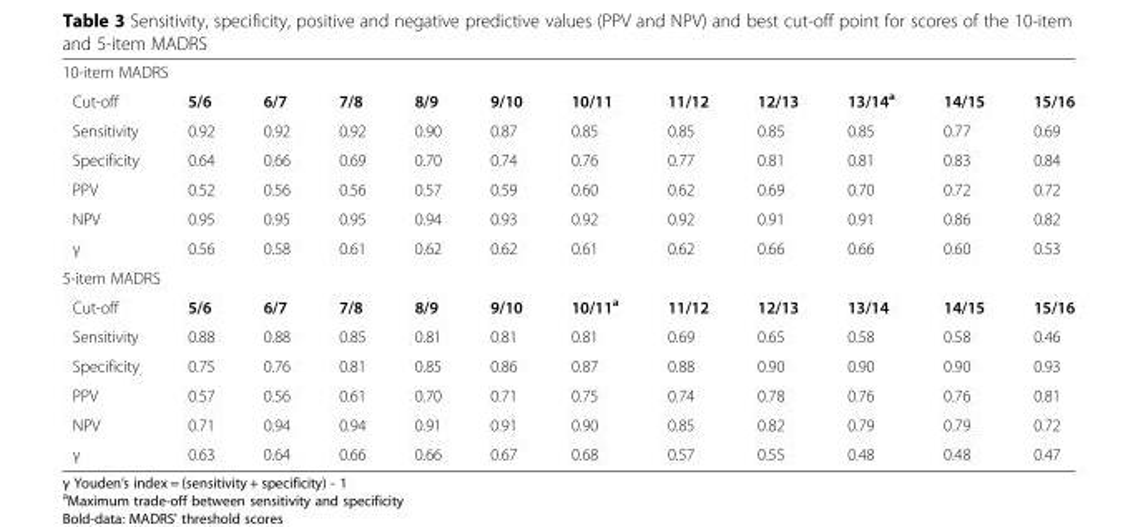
<table><tbody><tr><td colspan="12">10-item MADRS</td></tr><tr><td>Cut-off</td><td>5/6</td><td>6/7</td><td>7/8</td><td>8/9</td><td>9/10</td><td>10/11</td><td>11/12</td><td>12/13</td><td>13/14<sup>a</sup></td><td>14/15</td><td>15/16</td></tr><tr><td>Sensitivity</td><td>0.92</td><td>0.92</td><td>0.92</td><td>0.90</td><td>0.87</td><td>0.85</td><td>0.85</td><td>0.85</td><td>0.85</td><td>0.77</td><td>0.69</td></tr><tr><td>Specificity</td><td>0.64</td><td>0.66</td><td>0.69</td><td>0.70</td><td>0.74</td><td>0.76</td><td>0.77</td><td>0.81</td><td>0.81</td><td>0.83</td><td>0.84</td></tr><tr><td>PPV</td><td>0.52</td><td>0.56</td><td>0.56</td><td>0.57</td><td>0.59</td><td>0.60</td><td>0.62</td><td>0.69</td><td>0.70</td><td>0.72</td><td>0.72</td></tr><tr><td>NPV</td><td>0.95</td><td>0.95</td><td>0.95</td><td>0.94</td><td>0.93</td><td>0.92</td><td>0.92</td><td>0.91</td><td>0.91</td><td>0.86</td><td>0.82</td></tr><tr><td>γ</td><td>0.56</td><td>0.58</td><td>0.61</td><td>0.62</td><td>0.62</td><td>0.61</td><td>0.62</td><td>0.66</td><td>0.66</td><td>0.60</td><td>0.53</td></tr><tr><td colspan="12">5-item MADRS</td></tr><tr><td>Cut-off</td><td>5/6</td><td>6/7</td><td>7/8</td><td>8/9</td><td>9/10</td><td>10/11<sup>a</sup></td><td>11/12</td><td>12/13</td><td>13/14</td><td>14/15</td><td>15/16</td></tr><tr><td>Sensitivity</td><td>0.88</td><td>0.88</td><td>0.85</td><td>0.81</td><td>0.81</td><td>0.81</td><td>0.69</td><td>0.65</td><td>0.58</td><td>0.58</td><td>0.46</td></tr><tr><td>Specificity</td><td>0.75</td><td>0.76</td><td>0.81</td><td>0.85</td><td>0.86</td><td>0.87</td><td>0.88</td><td>0.90</td><td>0.90</td><td>0.90</td><td>0.93</td></tr><tr><td>PPV</td><td>0.57</td><td>0.56</td><td>0.61</td><td>0.70</td><td>0.71</td><td>0.75</td><td>0.74</td><td>0.78</td><td>0.76</td><td>0.76</td><td>0.81</td></tr><tr><td>NPV</td><td>0.71</td><td>0.94</td><td>0.94</td><td>0.91</td><td>0.91</td><td>0.90</td><td>0.85</td><td>0.82</td><td>0.79</td><td>0.79</td><td>0.72</td></tr><tr><td>γ</td><td>0.63</td><td>0.64</td><td>0.66</td><td>0.66</td><td>0.67</td><td>0.68</td><td>0.57</td><td>0.55</td><td>0.48</td><td>0.48</td><td>0.47</td></tr></tbody></table>